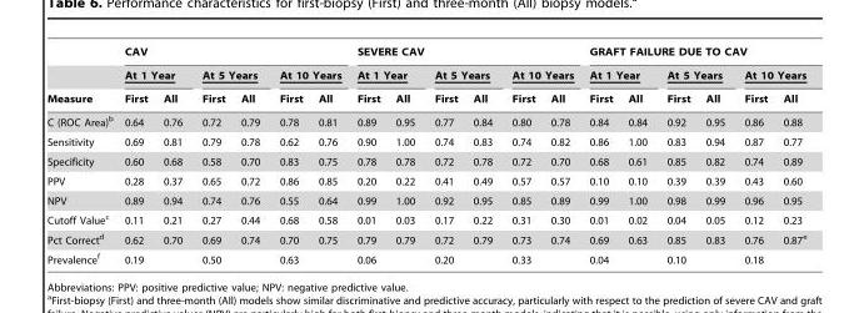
<table><thead><tr><td rowspan="3">Measure</td><td colspan="6">CAV</td><td colspan="6">SEVERE CAV</td><td colspan="6">GRAFT FAILURE DUE TO CAV</td></tr><tr><td colspan="2">At 1 Year</td><td colspan="2">At 5 Years</td><td colspan="2">At 10 Years</td><td colspan="2">At 1 Year</td><td colspan="2">At 5 Years</td><td colspan="2">At 10 Years</td><td colspan="2">At 1 Year</td><td colspan="2">At 5 Years</td><td colspan="2">At 10 Years</td></tr><tr><td>First</td><td>All</td><td>First</td><td>All</td><td>First</td><td>All</td><td>First</td><td>All</td><td>First</td><td>All</td><td>First</td><td>All</td><td>First</td><td>All</td><td>First</td><td>All</td><td>First</td><td>All</td></tr></thead><tbody><tr><td>C (ROC Area)<sup>b</sup></td><td>0.64</td><td>0.76</td><td>0.72</td><td>0.79</td><td>0.78</td><td>0.81</td><td>0.89</td><td>0.95</td><td>0.77</td><td>0.84</td><td>0.80</td><td>0.78</td><td>0.84</td><td>0.84</td><td>0.92</td><td>0.95</td><td>0.86</td><td>0.88</td></tr><tr><td>Sensitivity</td><td>0.69</td><td>0.81</td><td>0.79</td><td>0.78</td><td>0.62</td><td>0.76</td><td>0.90</td><td>1.00</td><td>0.74</td><td>0.83</td><td>0.74</td><td>0.82</td><td>0.86</td><td>1.00</td><td>0.83</td><td>0.94</td><td>0.87</td><td>0.77</td></tr><tr><td>Specificity</td><td>0.60</td><td>0.68</td><td>0.58</td><td>0.70</td><td>0.83</td><td>0.75</td><td>0.78</td><td>0.78</td><td>0.72</td><td>0.78</td><td>0.72</td><td>0.70</td><td>0.68</td><td>0.61</td><td>0.85</td><td>0.82</td><td>0.74</td><td>0.89</td></tr><tr><td>PPV</td><td>0.28</td><td>0.37</td><td>0.65</td><td>0.72</td><td>0.86</td><td>0.85</td><td>0.20</td><td>0.22</td><td>0.41</td><td>0.49</td><td>0.57</td><td>0.57</td><td>0.10</td><td>0.10</td><td>0.39</td><td>0.39</td><td>0.43</td><td>0.60</td></tr><tr><td>NPV</td><td>0.89</td><td>0.94</td><td>0.74</td><td>0.76</td><td>0.55</td><td>0.64</td><td>0.99</td><td>1.00</td><td>0.92</td><td>0.95</td><td>0.85</td><td>0.89</td><td>0.99</td><td>1.00</td><td>0.98</td><td>0.99</td><td>0.96</td><td>0.95</td></tr><tr><td>Cutoff Value<sup>c</sup></td><td>0.11</td><td>0.21</td><td>0.27</td><td>0.44</td><td>0.68</td><td>0.58</td><td>0.01</td><td>0.03</td><td>0.17</td><td>0.22</td><td>0.31</td><td>0.30</td><td>0.01</td><td>0.02</td><td>0.04</td><td>0.05</td><td>0.12</td><td>0.23</td></tr><tr><td>Pct Correct<sup>d</sup></td><td>0.62</td><td>0.70</td><td>0.69</td><td>0.74</td><td>0.70</td><td>0.75</td><td>0.79</td><td>0.79</td><td>0.72</td><td>0.79</td><td>0.73</td><td>0.74</td><td>0.69</td><td>0.63</td><td>0.85</td><td>0.83</td><td>0.76</td><td>0.87<sup>e</sup></td></tr><tr><td>Prevalence<sup>f</sup></td><td colspan="2">0.19</td><td colspan="2">0.50</td><td colspan="2">0.63</td><td colspan="2">0.06</td><td colspan="2">0.20</td><td colspan="2">0.33</td><td colspan="2">0.04</td><td colspan="2">0.10</td><td colspan="2">0.18</td></tr></tbody></table>